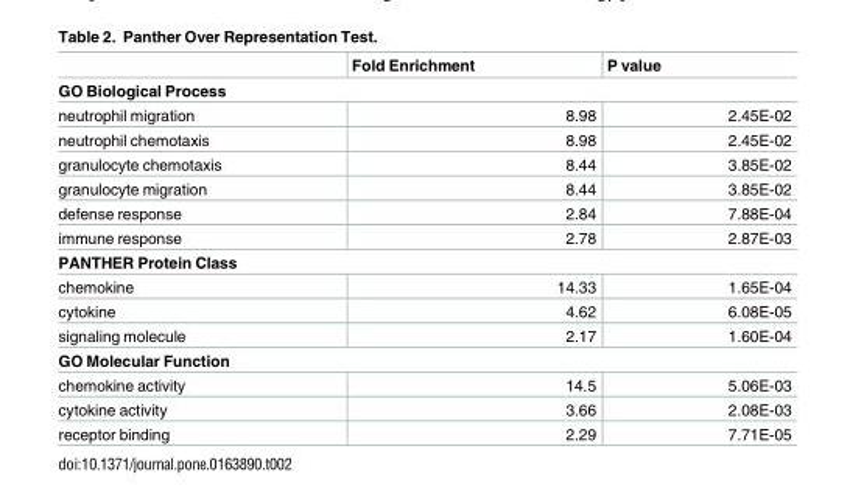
<table><thead><tr><td></td><td>Fold Enrichment</td><td>P value</td></tr></thead><tbody><tr><td colspan="3">GO Biological Process</td></tr><tr><td>neutrophil migration</td><td>8.98</td><td>2.45E-02</td></tr><tr><td>neutrophil chemotaxis</td><td>8.98</td><td>2.45E-02</td></tr><tr><td>granulocyte chemotaxis</td><td>8.44</td><td>3.85E-02</td></tr><tr><td>granulocyte migration</td><td>8.44</td><td>3.85E-02</td></tr><tr><td>defense response</td><td>2.84</td><td>7.88E-04</td></tr><tr><td>immune response</td><td>2.78</td><td>2.87E-03</td></tr><tr><td colspan="3">PANTHER Protein Class</td></tr><tr><td>chemokine</td><td>14.33</td><td>1.65E-04</td></tr><tr><td>cytokine</td><td>4.62</td><td>6.08E-05</td></tr><tr><td>signaling molecule</td><td>2.17</td><td>1.60E-04</td></tr><tr><td colspan="3">GO Molecular Function</td></tr><tr><td>chemokine activity</td><td>14.5</td><td>5.06E-03</td></tr><tr><td>cytokine activity</td><td>3.66</td><td>2.08E-03</td></tr><tr><td>receptor binding</td><td>2.29</td><td>7.71E-05</td></tr></tbody></table>